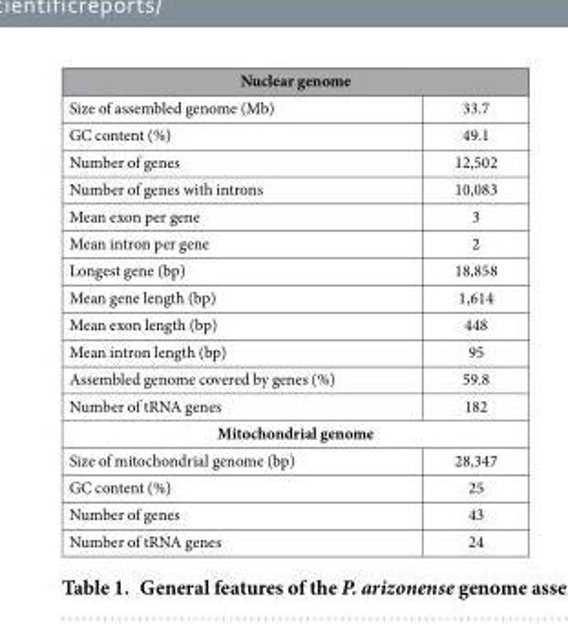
<table><thead><tr><td colspan="2">Nuclear genome</td></tr><tr><td>Size of assembled genome (Mb)</td><td>33.7</td></tr></thead><tbody><tr><td>GC content (%)</td><td>49.1</td></tr><tr><td>Number of genes</td><td>12,502</td></tr><tr><td>Number of genes with introns</td><td>10,083</td></tr><tr><td>Mean exon per gene</td><td>3</td></tr><tr><td>Mean intron per gene</td><td>2</td></tr><tr><td>Longest gene (bp)</td><td>18,858</td></tr><tr><td>Mean gene length (bp)</td><td>1,614</td></tr><tr><td>Mean exon length (bp)</td><td>448</td></tr><tr><td>Mean intron length (bp)</td><td>95</td></tr><tr><td>Assembled genome covered by genes (%)</td><td>59.8</td></tr><tr><td>Number of tRNA genes</td><td>182</td></tr><tr><td colspan="2">Mitochondrial genome</td></tr><tr><td>Size of mitochondrial genome (bp)</td><td>28,347</td></tr><tr><td>GC content (%)</td><td>25</td></tr><tr><td>Number of genes</td><td>43</td></tr><tr><td>Number of tRNA genes</td><td>24</td></tr></tbody></table>